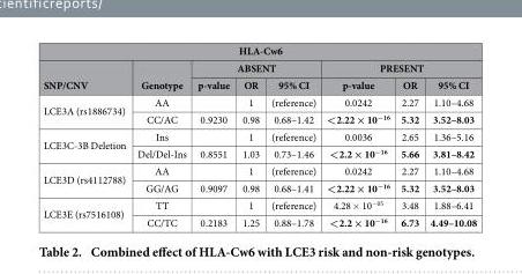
<table><thead><tr><td colspan="8">HLA-Cw6</td></tr><tr><td rowspan="2">SNP/CNV</td><td rowspan="2">Genotype</td><td colspan="3">ABSENT</td><td colspan="3">PRESENT</td></tr><tr><td>p-value</td><td>OR</td><td>95% CI</td><td>p-value</td><td>OR</td><td>95% CI</td></tr></thead><tbody><tr><td rowspan="2">LCE3A (rs1886734)</td><td>AA</td><td></td><td>1</td><td>(reference)</td><td>0.0242</td><td>2.27</td><td>1.10–4.68</td></tr><tr><td>CC/AC</td><td>0.9230</td><td>0.98</td><td>0.68–1.42</td><td>&lt; 2.22 × 10<sup>−16</sup></td><td>5.32</td><td>3.52–8.03</td></tr><tr><td rowspan="2">LCE3C-3B Deletion</td><td>Ins</td><td></td><td>1</td><td>(reference)</td><td>0.0036</td><td>2.65</td><td>1.36–5.16</td></tr><tr><td>Del/Del-Ins</td><td>0.8551</td><td>1.03</td><td>0.73–1.46</td><td>&lt; 2.2 × 10<sup>−16</sup></td><td>5.66</td><td>3.81–8.42</td></tr><tr><td rowspan="2">LCE3D (rs4112788)</td><td>AA</td><td></td><td>1</td><td>(reference)</td><td>0.0242</td><td>2.27</td><td>1.10–4.68</td></tr><tr><td>GG/AG</td><td>0.9097</td><td>0.98</td><td>0.68–1.41</td><td>&lt; 2.22 × 10<sup>−16</sup></td><td>5.32</td><td>3.52–8.03</td></tr><tr><td rowspan="2">LCE3E (rs7516108)</td><td>TT</td><td></td><td>1</td><td>(reference)</td><td>4.28 × 10<sup>−05</sup></td><td>3.48</td><td>1.88–6.41</td></tr><tr><td>CC/TC</td><td>0.2183</td><td>1.25</td><td>0.88–1.78</td><td>&lt; 2.2 × 10<sup>−16</sup></td><td>6.73</td><td>4.49–10.08</td></tr></tbody></table>